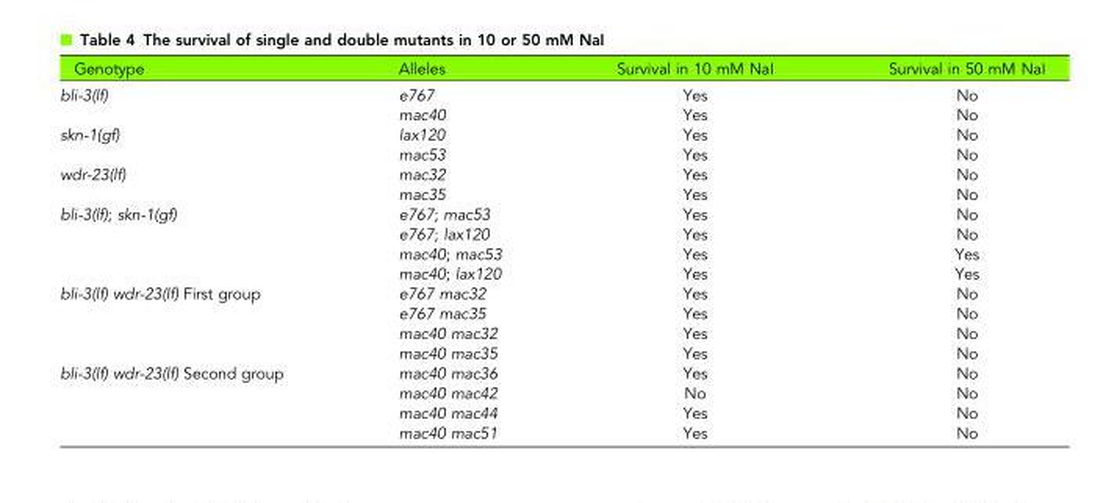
<table><thead><tr><td>Genotype</td><td>Alleles</td><td>Survival in 10 mM NaI</td><td>Survival in 50 mM NaI</td></tr></thead><tbody><tr><td rowspan="2">bli-3(lf)</td><td>e767</td><td>Yes</td><td>No</td></tr><tr><td>mac40</td><td>Yes</td><td>No</td></tr><tr><td rowspan="2">skn-1(gf)</td><td>lax120</td><td>Yes</td><td>No</td></tr><tr><td>mac53</td><td>Yes</td><td>No</td></tr><tr><td rowspan="2">wdr-23(lf)</td><td>mac32</td><td>Yes</td><td>No</td></tr><tr><td>mac35</td><td>Yes</td><td>No</td></tr><tr><td rowspan="4">bli-3(lf); skn-1(gf)</td><td>e767; mac53</td><td>Yes</td><td>No</td></tr><tr><td>e767; lax120</td><td>Yes</td><td>No</td></tr><tr><td>mac40; mac53</td><td>Yes</td><td>Yes</td></tr><tr><td>mac40; lax120</td><td>Yes</td><td>Yes</td></tr><tr><td rowspan="4">bli-3(lf) wdr-23(lf) First group</td><td>e767 mac32</td><td>Yes</td><td>No</td></tr><tr><td>e767 mac35</td><td>Yes</td><td>No</td></tr><tr><td>mac40 mac32</td><td>Yes</td><td>No</td></tr><tr><td>mac40 mac35</td><td>Yes</td><td>No</td></tr><tr><td rowspan="4">bli-3(lf) wdr-23(lf) Second group</td><td>mac40 mac36</td><td>Yes</td><td>No</td></tr><tr><td>mac40 mac42</td><td>No</td><td>No</td></tr><tr><td>mac40 mac44</td><td>Yes</td><td>No</td></tr><tr><td>mac40 mac51</td><td>Yes</td><td>No</td></tr></tbody></table>